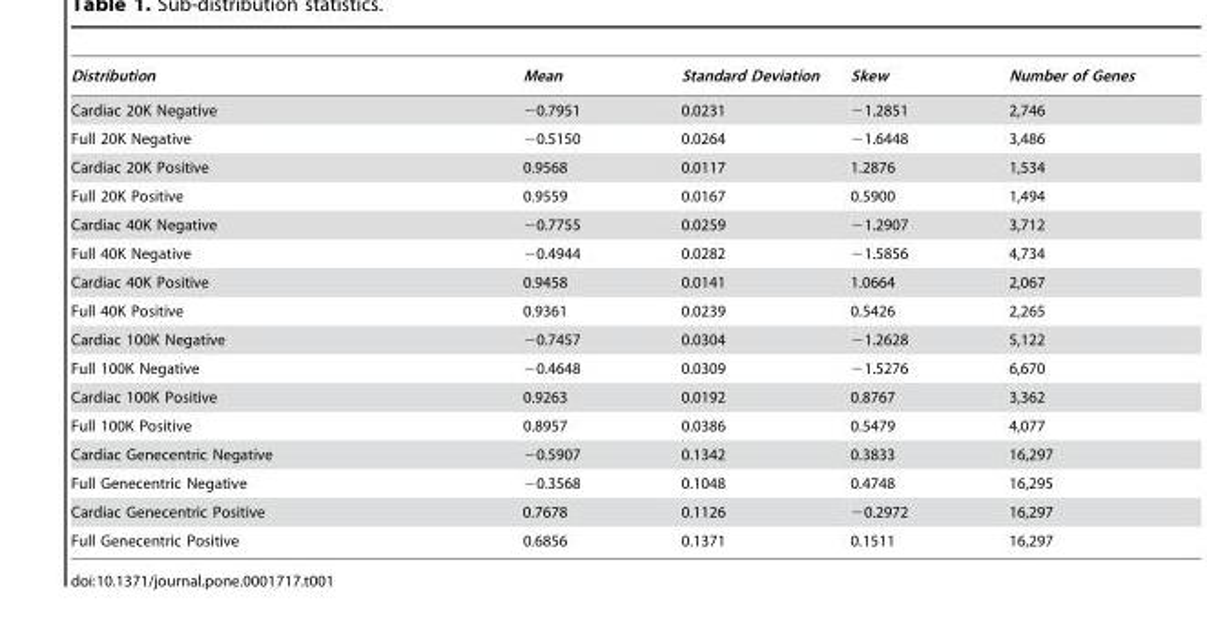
<table><thead><tr><td>Distribution</td><td>Mean</td><td>Standard Deviation</td><td>Skew</td><td>Number of Genes</td></tr></thead><tbody><tr><td>Cardiac 20K Negative</td><td>−0.7951</td><td>0.0231</td><td>−1.2851</td><td>2,746</td></tr><tr><td>Full 20K Negative</td><td>−0.5150</td><td>0.0264</td><td>−1.6448</td><td>3,486</td></tr><tr><td>Cardiac 20K Positive</td><td>0.9568</td><td>0.0117</td><td>1.2876</td><td>1,534</td></tr><tr><td>Full 20K Positive</td><td>0.9559</td><td>0.0167</td><td>0.5900</td><td>1,494</td></tr><tr><td>Cardiac 40K Negative</td><td>−0.7755</td><td>0.0259</td><td>−1.2907</td><td>3,712</td></tr><tr><td>Full 40K Negative</td><td>−0.4944</td><td>0.0282</td><td>−1.5856</td><td>4,734</td></tr><tr><td>Cardiac 40K Positive</td><td>0.9458</td><td>0.0141</td><td>1.0664</td><td>2,067</td></tr><tr><td>Full 40K Positive</td><td>0.9361</td><td>0.0239</td><td>0.5426</td><td>2,265</td></tr><tr><td>Cardiac 100K Negative</td><td>−0.7457</td><td>0.0304</td><td>−1.2628</td><td>5,122</td></tr><tr><td>Full 100K Negative</td><td>−0.4648</td><td>0.0309</td><td>−1.5276</td><td>6,670</td></tr><tr><td>Cardiac 100K Positive</td><td>0.9263</td><td>0.0192</td><td>0.8767</td><td>3,362</td></tr><tr><td>Full 100K Positive</td><td>0.8957</td><td>0.0386</td><td>0.5479</td><td>4,077</td></tr><tr><td>Cardiac Genecentric Negative</td><td>−0.5907</td><td>0.1342</td><td>0.3833</td><td>16,297</td></tr><tr><td>Full Genecentric Negative</td><td>−0.3568</td><td>0.1048</td><td>0.4748</td><td>16,295</td></tr><tr><td>Cardiac Genecentric Positive</td><td>0.7678</td><td>0.1126</td><td>−0.2972</td><td>16,297</td></tr><tr><td>Full Genecentric Positive</td><td>0.6856</td><td>0.1371</td><td>0.1511</td><td>16,297</td></tr></tbody></table>